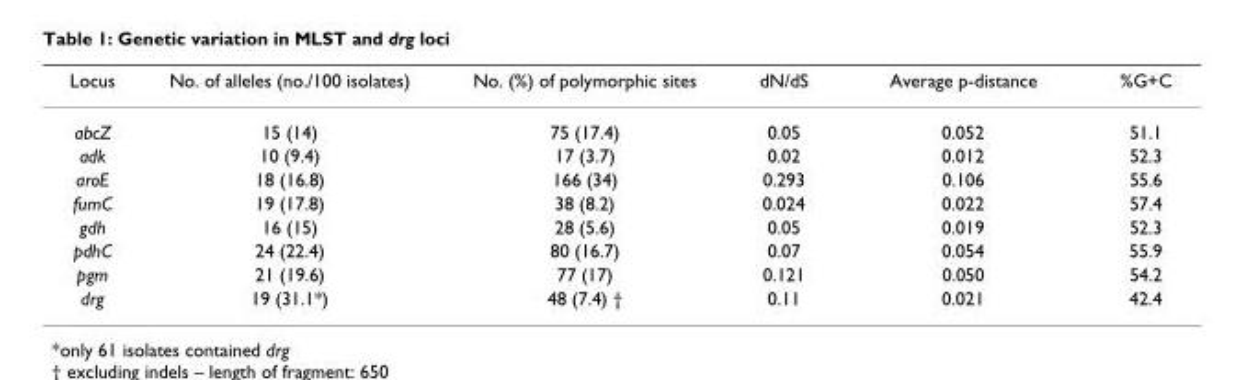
<table><thead><tr><td>Locus</td><td>No. of alleles (no./100 isolates)</td><td>No. (%) of polymorphic sites</td><td>dN/dS</td><td>Average p-distance</td><td>%G+C</td></tr></thead><tbody><tr><td>abcZ</td><td>15 (14)</td><td>75 (17.4)</td><td>0.05</td><td>0.052</td><td>51.1</td></tr><tr><td>adk</td><td>10 (9.4)</td><td>17 (3.7)</td><td>0.02</td><td>0.012</td><td>52.3</td></tr><tr><td>aroE</td><td>18 (16.8)</td><td>166 (34)</td><td>0.293</td><td>0.106</td><td>55.6</td></tr><tr><td>fumC</td><td>19 (17.8)</td><td>38 (8.2)</td><td>0.024</td><td>0.022</td><td>57.4</td></tr><tr><td>gdh</td><td>16 (15)</td><td>28 (5.6)</td><td>0.05</td><td>0.019</td><td>52.3</td></tr><tr><td>pdhC</td><td>24 (22.4)</td><td>80 (16.7)</td><td>0.07</td><td>0.054</td><td>55.9</td></tr><tr><td>pgm</td><td>21 (19.6)</td><td>77 (17)</td><td>0.121</td><td>0.050</td><td>54.2</td></tr><tr><td>drg</td><td>19 (31.1*)</td><td>48 (7.4) †</td><td>0.11</td><td>0.021</td><td>42.4</td></tr></tbody></table>